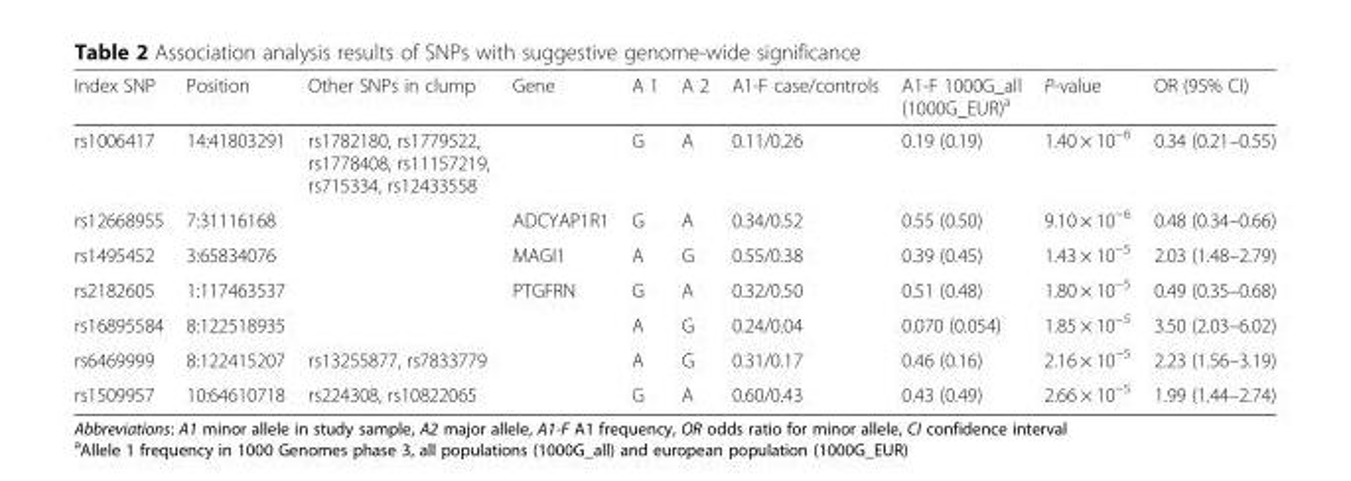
<table><thead><tr><td>Index SNP</td><td>Position</td><td>Other SNPs in clump</td><td>Gene</td><td>A 1</td><td>A 2</td><td>A1-F case/controls</td><td>A1-F 1000G_all (1000G_EUR)<sup>a</sup></td><td>P-value</td><td>OR (95% CI)</td></tr></thead><tbody><tr><td>rs1006417</td><td>14:41803291</td><td>rs1782180, rs1779522, rs1778408, rs11157219, rs715334, rs12433558</td><td></td><td>G</td><td>A</td><td>0.11/0.26</td><td>0.19 (0.19)</td><td>1.40 × 10<sup>−6</sup></td><td>0.34 (0.21–0.55)</td></tr><tr><td>rs12668955</td><td>7:31116168</td><td></td><td>ADCYAP1R1</td><td>G</td><td>A</td><td>0.34/0.52</td><td>0.55 (0.50)</td><td>9.10 × 10<sup>−6</sup></td><td>0.48 (0.34–0.66)</td></tr><tr><td>rs1495452</td><td>3:65834076</td><td></td><td>MAGI1</td><td>A</td><td>G</td><td>0.55/0.38</td><td>0.39 (0.45)</td><td>1.43 × 10<sup>−5</sup></td><td>2.03 (1.48–2.79)</td></tr><tr><td>rs2182605</td><td>1:117463537</td><td></td><td>PTGFRN</td><td>G</td><td>A</td><td>0.32/0.50</td><td>0.51 (0.48)</td><td>1.80 × 10<sup>−5</sup></td><td>0.49 (0.35–0.68)</td></tr><tr><td>rs16895584</td><td>8:122518935</td><td></td><td></td><td>A</td><td>G</td><td>0.24/0.04</td><td>0.070 (0.054)</td><td>1.85 × 10<sup>−5</sup></td><td>3.50 (2.03–6.02)</td></tr><tr><td>rs6469999</td><td>8:122415207</td><td>rs13255877, rs7833779</td><td></td><td>A</td><td>G</td><td>0.31/0.17</td><td>0.46 (0.16)</td><td>2.16 × 10<sup>−5</sup></td><td>2.23 (1.56–3.19)</td></tr><tr><td>rs1509957</td><td>10:64610718</td><td>rs224308, rs10822065</td><td></td><td>G</td><td>A</td><td>0.60/0.43</td><td>0.43 (0.49)</td><td>2.66 × 10<sup>−5</sup></td><td>1.99 (1.44–2.74)</td></tr></tbody></table>